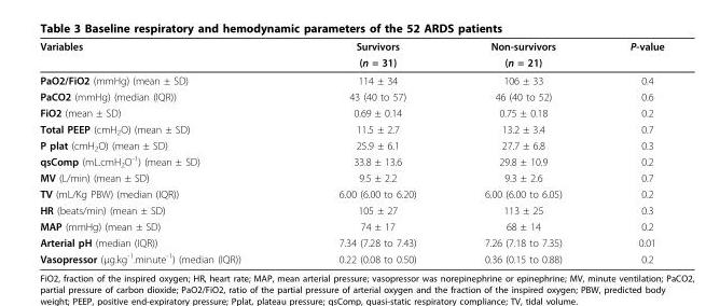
<table><thead><tr><td rowspan="2">Variables</td><td rowspan="2">Survivors (n = 31)</td><td rowspan="2">Non-survivors (n = 21)</td><td rowspan="2">P-value</td></tr><tr></tr></thead><tbody><tr><td>PaO2/FiO2 (mmHg) (mean ± SD)</td><td>114 ± 34</td><td>106 ± 33</td><td>0.4</td></tr><tr><td>PaCO2 (mmHg) (median (IQR))</td><td>43 (40 to 57)</td><td>46 (40 to 52)</td><td>0.6</td></tr><tr><td>FiO2 (mean ± SD)</td><td>0.69 ± 0.14</td><td>0.75 ± 0.18</td><td>0.2</td></tr><tr><td>Total PEEP (cmH<sub>2</sub>O) (mean ± SD)</td><td>11.5 ± 2.7</td><td>13.2 ± 3.4</td><td>0.7</td></tr><tr><td>P plat (cmH<sub>2</sub>O) (mean ± SD)</td><td>25.9 ± 6.1</td><td>27.7 ± 6.8</td><td>0.3</td></tr><tr><td>qsComp (mL.cmH<sub>2</sub>O<sup>-1</sup>) (mean ± SD)</td><td>33.8 ± 13.6</td><td>29.8 ± 10.9</td><td>0.2</td></tr><tr><td>MV (L/min) (mean ± SD)</td><td>9.5 ± 2.2</td><td>9.3 ± 2.6</td><td>0.7</td></tr><tr><td>TV (mL/Kg PBW) (median (IQR))</td><td>6.00 (6.00 to 6.20)</td><td>6.00 (6.00 to 6.05)</td><td>0.2</td></tr><tr><td>HR (beats/min) (mean ± SD)</td><td>105 ± 27</td><td>113 ± 25</td><td>0.3</td></tr><tr><td>MAP (mmHg) (mean ± SD)</td><td>74 ± 17</td><td>68 ± 14</td><td>0.2</td></tr><tr><td>Arterial pH (median (IQR))</td><td>7.34 (7.28 to 7.43)</td><td>7.26 (7.18 to 7.35)</td><td>0.01</td></tr><tr><td>Vasopressor (μg.kg<sup>-1</sup>.minute<sup>-1</sup>) (median (IQR))</td><td>0.22 (0.08 to 0.50)</td><td>0.36 (0.15 to 0.88)</td><td>0.2</td></tr></tbody></table>